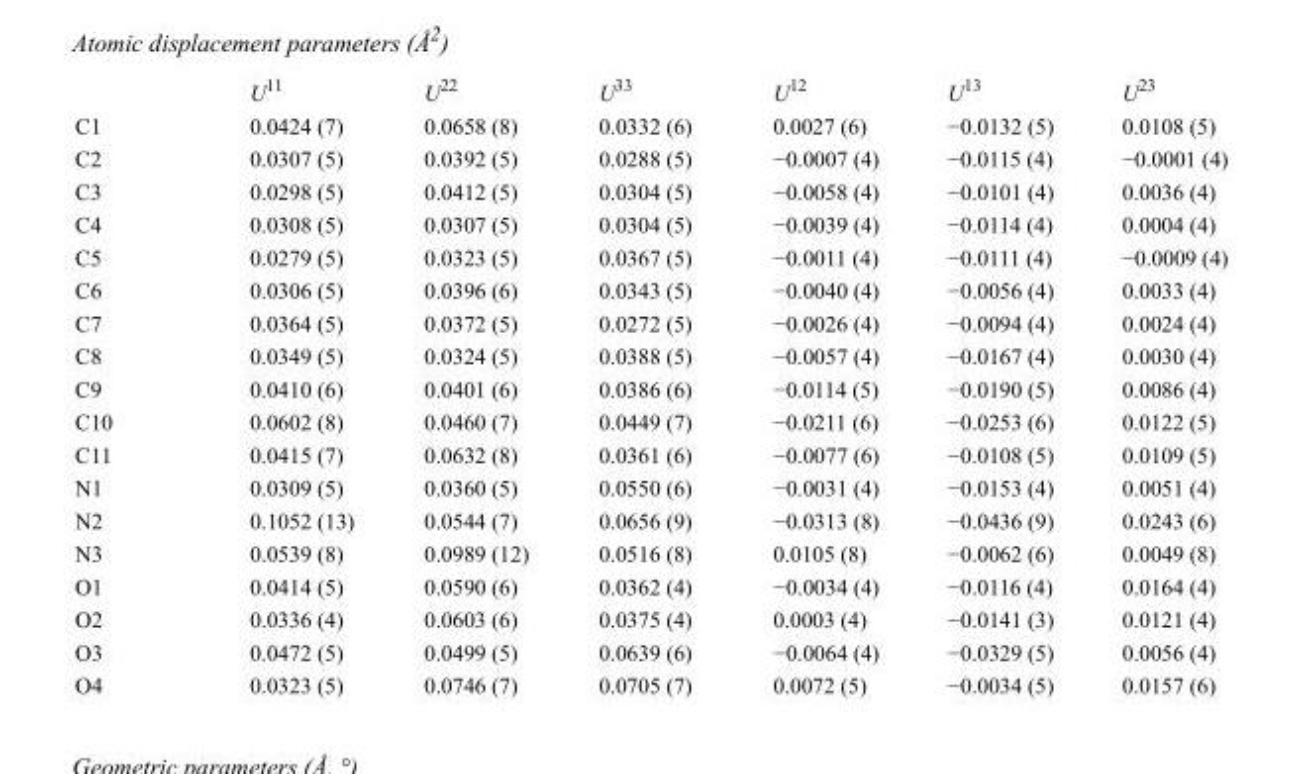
<table><thead><tr><td></td><td>U<sup>11</sup></td><td>U<sup>22</sup></td><td>U<sup>33</sup></td><td>U<sup>12</sup></td><td>U<sup>13</sup></td><td>U<sup>23</sup></td></tr></thead><tbody><tr><td>C1</td><td>0.0424 (7)</td><td>0.0658 (8)</td><td>0.0332 (6)</td><td>0.0027 (6)</td><td>−0.0132 (5)</td><td>0.0108 (5)</td></tr><tr><td>C2</td><td>0.0307 (5)</td><td>0.0392 (5)</td><td>0.0288 (5)</td><td>−0.0007 (4)</td><td>−0.0115 (4)</td><td>−0.0001 (4)</td></tr><tr><td>C3</td><td>0.0298 (5)</td><td>0.0412 (5)</td><td>0.0304 (5)</td><td>−0.0058 (4)</td><td>−0.0101 (4)</td><td>0.0036 (4)</td></tr><tr><td>C4</td><td>0.0308 (5)</td><td>0.0307 (5)</td><td>0.0304 (5)</td><td>−0.0039 (4)</td><td>−0.0114 (4)</td><td>0.0004 (4)</td></tr><tr><td>C5</td><td>0.0279 (5)</td><td>0.0323 (5)</td><td>0.0367 (5)</td><td>−0.0011 (4)</td><td>−0.0111 (4)</td><td>−0.0009 (4)</td></tr><tr><td>C6</td><td>0.0306 (5)</td><td>0.0396 (6)</td><td>0.0343 (5)</td><td>−0.0040 (4)</td><td>−0.0056 (4)</td><td>0.0033 (4)</td></tr><tr><td>C7</td><td>0.0364 (5)</td><td>0.0372 (5)</td><td>0.0272 (5)</td><td>−0.0026 (4)</td><td>−0.0094 (4)</td><td>0.0024 (4)</td></tr><tr><td>C8</td><td>0.0349 (5)</td><td>0.0324 (5)</td><td>0.0388 (5)</td><td>−0.0057 (4)</td><td>−0.0167 (4)</td><td>0.0030 (4)</td></tr><tr><td>C9</td><td>0.0410 (6)</td><td>0.0401 (6)</td><td>0.0386 (6)</td><td>−0.0114 (5)</td><td>−0.0190 (5)</td><td>0.0086 (4)</td></tr><tr><td>C10</td><td>0.0602 (8)</td><td>0.0460 (7)</td><td>0.0449 (7)</td><td>−0.0211 (6)</td><td>−0.0253 (6)</td><td>0.0122 (5)</td></tr><tr><td>C11</td><td>0.0415 (7)</td><td>0.0632 (8)</td><td>0.0361 (6)</td><td>−0.0077 (6)</td><td>−0.0108 (5)</td><td>0.0109 (5)</td></tr><tr><td>N1</td><td>0.0309 (5)</td><td>0.0360 (5)</td><td>0.0550 (6)</td><td>−0.0031 (4)</td><td>−0.0153 (4)</td><td>0.0051 (4)</td></tr><tr><td>N2</td><td>0.1052 (13)</td><td>0.0544 (7)</td><td>0.0656 (9)</td><td>−0.0313 (8)</td><td>−0.0436 (9)</td><td>0.0243 (6)</td></tr><tr><td>N3</td><td>0.0539 (8)</td><td>0.0989 (12)</td><td>0.0516 (8)</td><td>0.0105 (8)</td><td>−0.0062 (6)</td><td>0.0049 (8)</td></tr><tr><td>O1</td><td>0.0414 (5)</td><td>0.0590 (6)</td><td>0.0362 (4)</td><td>−0.0034 (4)</td><td>−0.0116 (4)</td><td>0.0164 (4)</td></tr><tr><td>O2</td><td>0.0336 (4)</td><td>0.0603 (6)</td><td>0.0375 (4)</td><td>0.0003 (4)</td><td>−0.0141 (3)</td><td>0.0121 (4)</td></tr><tr><td>O3</td><td>0.0472 (5)</td><td>0.0499 (5)</td><td>0.0639 (6)</td><td>−0.0064 (4)</td><td>−0.0329 (5)</td><td>0.0056 (4)</td></tr><tr><td>O4</td><td>0.0323 (5)</td><td>0.0746 (7)</td><td>0.0705 (7)</td><td>0.0072 (5)</td><td>−0.0034 (5)</td><td>0.0157 (6)</td></tr></tbody></table>